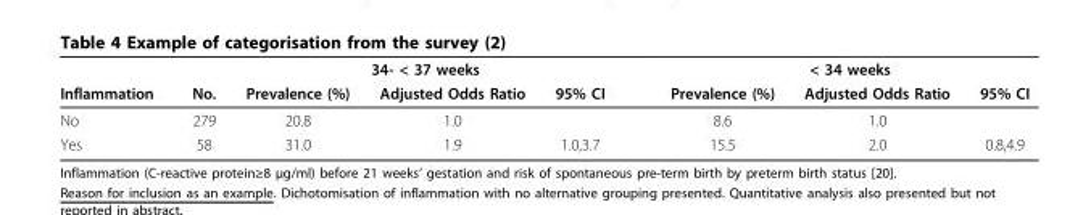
<table><thead><tr><td rowspan="2">Inflammation</td><td rowspan="2">No.</td><td colspan="3">34- &lt; 37 weeks</td><td colspan="3">&lt; 34 weeks</td></tr><tr><td>Prevalence (%)</td><td>Adjusted Odds Ratio</td><td>95% CI</td><td>Prevalence (%)</td><td>Adjusted Odds Ratio</td><td>95% CI</td></tr></thead><tbody><tr><td>No</td><td>279</td><td>20.8</td><td>1.0</td><td></td><td>8.6</td><td>1.0</td><td></td></tr><tr><td>Yes</td><td>58</td><td>31.0</td><td>1.9</td><td>1.0,3.7</td><td>15.5</td><td>2.0</td><td>0.8,4.9</td></tr></tbody></table>